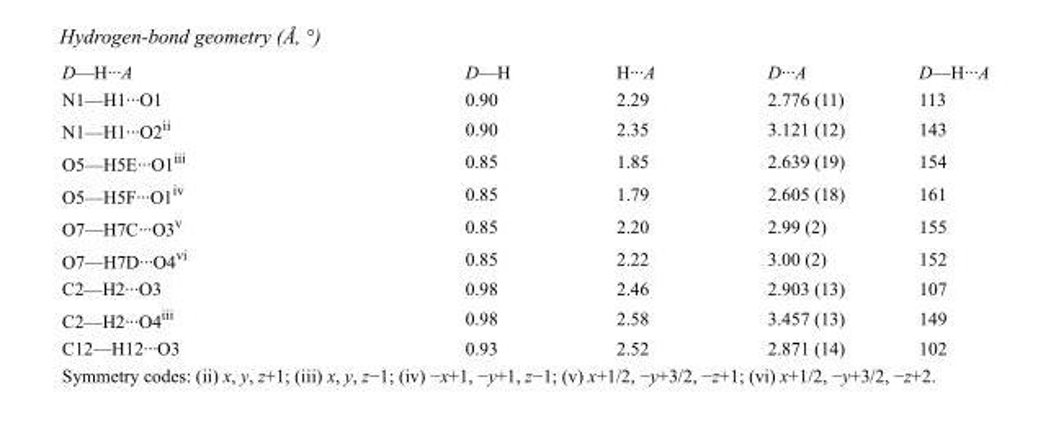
<table><tbody><tr><td>D—H···A</td><td>D—H</td><td>H···A</td><td>D···A</td><td>D—H···A</td></tr><tr><td>N1—H1···O1</td><td>0.90</td><td>2.29</td><td>2.776 (11)</td><td>113</td></tr><tr><td>N1—H1···O2<sup>ii</sup></td><td>0.90</td><td>2.35</td><td>3.121 (12)</td><td>143</td></tr><tr><td>O5—H5E···O1<sup>iii</sup></td><td>0.85</td><td>1.85</td><td>2.639 (19)</td><td>154</td></tr><tr><td>O5—H5F···O1<sup>iv</sup></td><td>0.85</td><td>1.79</td><td>2.605 (18)</td><td>161</td></tr><tr><td>O7—H7C···O3<sup>v</sup></td><td>0.85</td><td>2.20</td><td>2.99 (2)</td><td>155</td></tr><tr><td>O7—H7D···O4<sup>vi</sup></td><td>0.85</td><td>2.22</td><td>3.00 (2)</td><td>152</td></tr><tr><td>C2—H2···O3</td><td>0.98</td><td>2.46</td><td>2.903 (13)</td><td>107</td></tr><tr><td>C2—H2···O4<sup>iii</sup></td><td>0.98</td><td>2.58</td><td>3.457 (13)</td><td>149</td></tr><tr><td>C12—H12···O3</td><td>0.93</td><td>2.52</td><td>2.871 (14)</td><td>102</td></tr></tbody></table>